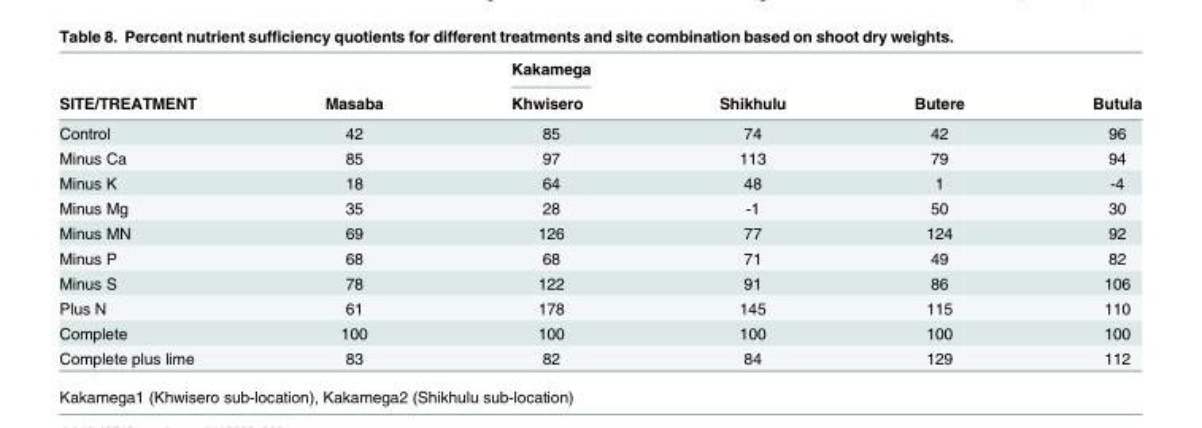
<table><thead><tr><td rowspan="2">SITE/TREATMENT</td><td rowspan="2">Masaba</td><td rowspan="2">Kakamega Khwisero</td><td rowspan="2">Shikhulu</td><td rowspan="2">Butere</td><td rowspan="2">Butula</td></tr><tr></tr></thead><tbody><tr><td>Control</td><td>42</td><td>85</td><td>74</td><td>42</td><td>96</td></tr><tr><td>Minus Ca</td><td>85</td><td>97</td><td>113</td><td>79</td><td>94</td></tr><tr><td>Minus K</td><td>18</td><td>64</td><td>48</td><td>1</td><td>-4</td></tr><tr><td>Minus Mg</td><td>35</td><td>28</td><td>-1</td><td>50</td><td>30</td></tr><tr><td>Minus MN</td><td>69</td><td>126</td><td>77</td><td>124</td><td>92</td></tr><tr><td>Minus P</td><td>68</td><td>68</td><td>71</td><td>49</td><td>82</td></tr><tr><td>Minus S</td><td>78</td><td>122</td><td>91</td><td>86</td><td>106</td></tr><tr><td>Plus N</td><td>61</td><td>178</td><td>145</td><td>115</td><td>110</td></tr><tr><td>Complete</td><td>100</td><td>100</td><td>100</td><td>100</td><td>100</td></tr><tr><td>Complete plus lime</td><td>83</td><td>82</td><td>84</td><td>129</td><td>112</td></tr></tbody></table>